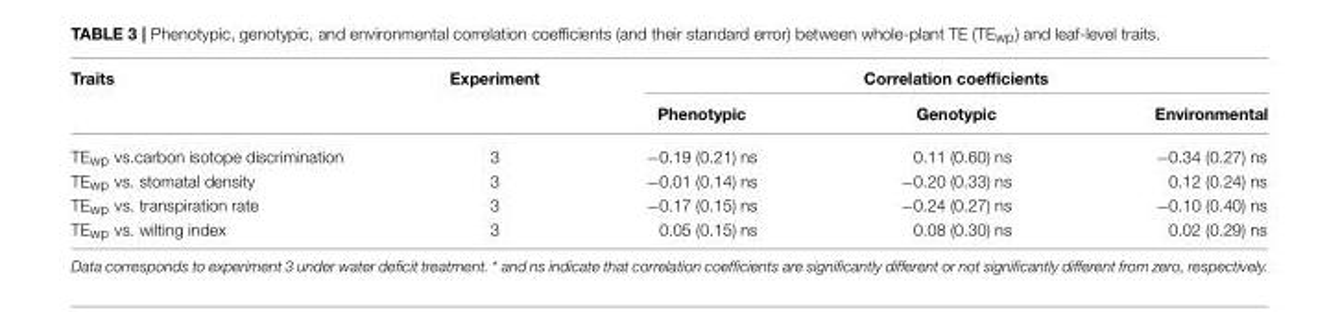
<table><thead><tr><td rowspan="2">Traits</td><td rowspan="2">Experiment</td><td colspan="3">Correlation coefficients</td></tr><tr><td>Phenotypic</td><td>Genotypic</td><td>Environmental</td></tr></thead><tbody><tr><td>TE<sub>wp</sub> vs.carbon isotope discrimination</td><td>3</td><td>−0.19 (0.21) ns</td><td>0.11 (0.60) ns</td><td>−0.34 (0.27) ns</td></tr><tr><td>TE<sub>wp</sub> vs. stomatal density</td><td>3</td><td>−0.01 (0.14) ns</td><td>−0.20 (0.33) ns</td><td>0.12 (0.24) ns</td></tr><tr><td>TE<sub>wp</sub> vs. transpiration rate</td><td>3</td><td>−0.17 (0.15) ns</td><td>−0.24 (0.27) ns</td><td>−0.10 (0.40) ns</td></tr><tr><td>TE<sub>wp</sub> vs. wilting index</td><td>3</td><td>0.05 (0.15) ns</td><td>0.08 (0.30) ns</td><td>0.02 (0.29) ns</td></tr></tbody></table>